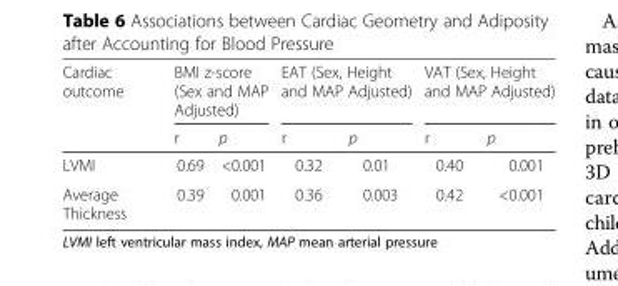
<table><thead><tr><td rowspan="2">Cardiac outcome</td><td colspan="2">BMI z-score (Sex and MAP Adjusted)</td><td colspan="2">EAT (Sex, Height and MAP Adjusted)</td><td colspan="2">VAT (Sex, Height and MAP Adjusted)</td></tr><tr><td>r</td><td>p</td><td>r</td><td>p</td><td>r</td><td>p</td></tr></thead><tbody><tr><td>LVMI</td><td>0.69</td><td>&lt;0.001</td><td>0.32</td><td>0.01</td><td>0.40</td><td>0.001</td></tr><tr><td>Average Thickness</td><td>0.39</td><td>0.001</td><td>0.36</td><td>0.003</td><td>0.42</td><td>&lt;0.001</td></tr></tbody></table>